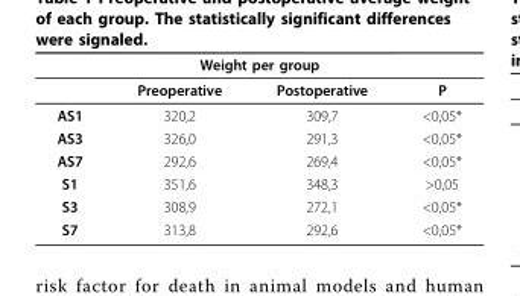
<table><thead><tr><td colspan="4">Weight per group</td></tr><tr><td></td><td>Preoperative</td><td>Postoperative</td><td>P</td></tr></thead><tbody><tr><td>AS1</td><td>320,2</td><td>309,7</td><td>&lt;0,05*</td></tr><tr><td>AS3</td><td>326,0</td><td>291,3</td><td>&lt;0,05*</td></tr><tr><td>AS7</td><td>292,6</td><td>269,4</td><td>&lt;0,05*</td></tr><tr><td>S1</td><td>351,6</td><td>348,3</td><td>&gt;0,05</td></tr><tr><td>S3</td><td>308,9</td><td>272,1</td><td>&lt;0,05*</td></tr><tr><td>S7</td><td>313,8</td><td>292,6</td><td>&lt;0,05*</td></tr></tbody></table>